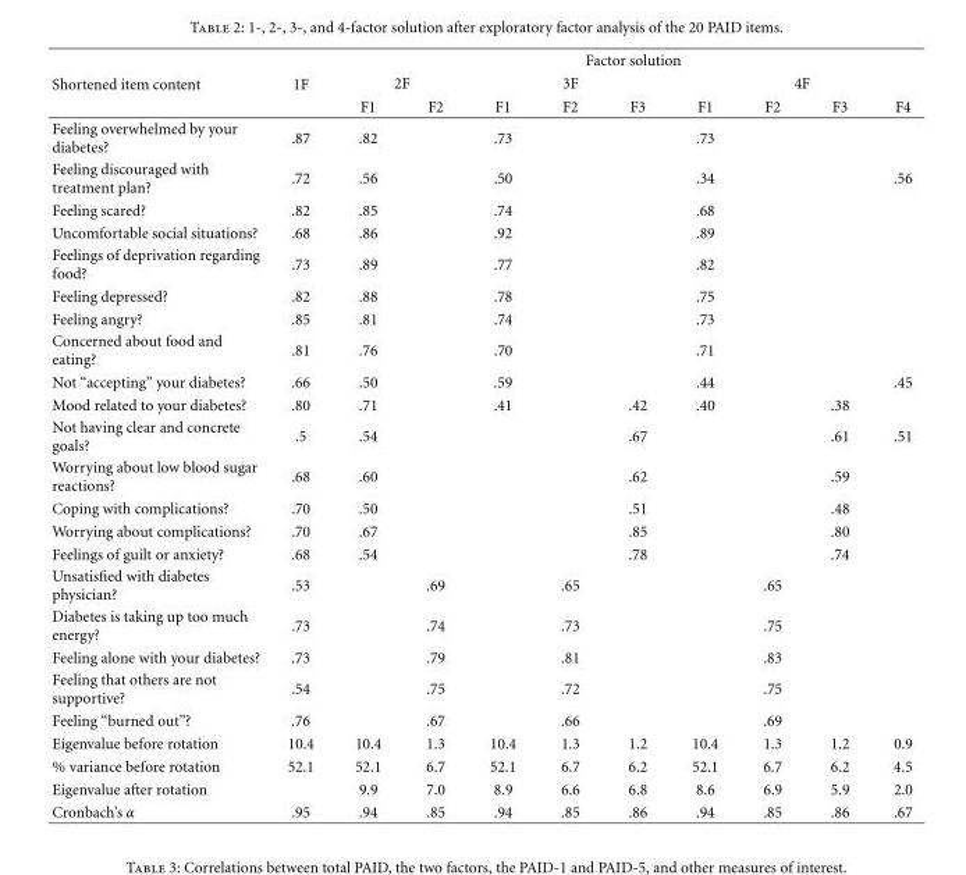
<table><thead><tr><td rowspan="3">Shortened item content</td><td rowspan="3">1F</td><td colspan="9">Factor solution</td></tr><tr><td colspan="2">2F</td><td colspan="3">3F</td><td colspan="4">4F</td></tr><tr><td>F1</td><td>F2</td><td>F1</td><td>F2</td><td>F3</td><td>F1</td><td>F2</td><td>F3</td><td>F4</td></tr></thead><tbody><tr><td>Feeling overwhelmed by your diabetes?</td><td>.87</td><td>.82</td><td></td><td>.73</td><td></td><td></td><td>.73</td><td></td><td></td><td></td></tr><tr><td>Feeling discouraged with treatment plan?</td><td>.72</td><td>.56</td><td></td><td>.50</td><td></td><td></td><td>.34</td><td></td><td></td><td>.56</td></tr><tr><td>Feeling scared?</td><td>.82</td><td>.85</td><td></td><td>.74</td><td></td><td></td><td>.68</td><td></td><td></td><td></td></tr><tr><td>Uncomfortable social situations?</td><td>.68</td><td>.86</td><td></td><td>.92</td><td></td><td></td><td>.89</td><td></td><td></td><td></td></tr><tr><td>Feelings of deprivation regarding food?</td><td>.73</td><td>.89</td><td></td><td>.77</td><td></td><td></td><td>.82</td><td></td><td></td><td></td></tr><tr><td>Feeling depressed?</td><td>.82</td><td>.88</td><td></td><td>.78</td><td></td><td></td><td>.75</td><td></td><td></td><td></td></tr><tr><td>Feeling angry?</td><td>.85</td><td>.81</td><td></td><td>.74</td><td></td><td></td><td>.73</td><td></td><td></td><td></td></tr><tr><td>Concerned about food and eating?</td><td>.81</td><td>.76</td><td></td><td>.70</td><td></td><td></td><td>.71</td><td></td><td></td><td></td></tr><tr><td>Not “accepting” your diabetes?</td><td>.66</td><td>.50</td><td></td><td>.59</td><td></td><td></td><td>.44</td><td></td><td></td><td>.45</td></tr><tr><td>Mood related to your diabetes?</td><td>.80</td><td>.71</td><td></td><td>.41</td><td></td><td>.42</td><td>.40</td><td></td><td>.38</td><td></td></tr><tr><td>Not having clear and concrete goals?</td><td>.5</td><td>.54</td><td></td><td></td><td></td><td>.67</td><td></td><td></td><td>.61</td><td>.51</td></tr><tr><td>Worrying about low blood sugar reactions?</td><td>.68</td><td>.60</td><td></td><td></td><td></td><td>.62</td><td></td><td></td><td>.59</td><td></td></tr><tr><td>Coping with complications?</td><td>.70</td><td>.50</td><td></td><td></td><td></td><td>.51</td><td></td><td></td><td>.48</td><td></td></tr><tr><td>Worrying about complications?</td><td>.70</td><td>.67</td><td></td><td></td><td></td><td>.85</td><td></td><td></td><td>.80</td><td></td></tr><tr><td>Feelings of guilt or anxiety?</td><td>.68</td><td>.54</td><td></td><td></td><td></td><td>.78</td><td></td><td></td><td>.74</td><td></td></tr><tr><td>Unsatisfied with diabetes physician?</td><td>.53</td><td></td><td>.69</td><td></td><td>.65</td><td></td><td></td><td>.65</td><td></td><td></td></tr><tr><td>Diabetes is taking up too much energy?</td><td>.73</td><td></td><td>.74</td><td></td><td>.73</td><td></td><td></td><td>.75</td><td></td><td></td></tr><tr><td>Feeling alone with your diabetes?</td><td>.73</td><td></td><td>.79</td><td></td><td>.81</td><td></td><td></td><td>.83</td><td></td><td></td></tr><tr><td>Feeling that others are not supportive?</td><td>.54</td><td></td><td>.75</td><td></td><td>.72</td><td></td><td></td><td>.75</td><td></td><td></td></tr><tr><td>Feeling “burned out”?</td><td>.76</td><td></td><td>.67</td><td></td><td>.66</td><td></td><td></td><td>.69</td><td></td><td></td></tr><tr><td>Eigenvalue before rotation</td><td>10.4</td><td>10.4</td><td>1.3</td><td>10.4</td><td>1.3</td><td>1.2</td><td>10.4</td><td>1.3</td><td>1.2</td><td>0.9</td></tr><tr><td>% variance before rotation</td><td>52.1</td><td>52.1</td><td>6.7</td><td>52.1</td><td>6.7</td><td>6.2</td><td>52.1</td><td>6.7</td><td>6.2</td><td>4.5</td></tr><tr><td>Eigenvalue after rotation</td><td></td><td>9.9</td><td>7.0</td><td>8.9</td><td>6.6</td><td>6.8</td><td>8.6</td><td>6.9</td><td>5.9</td><td>2.0</td></tr><tr><td>Cronbach’s α</td><td>.95</td><td>.94</td><td>.85</td><td>.94</td><td>.85</td><td>.86</td><td>.94</td><td>.85</td><td>.86</td><td>.67</td></tr></tbody></table>